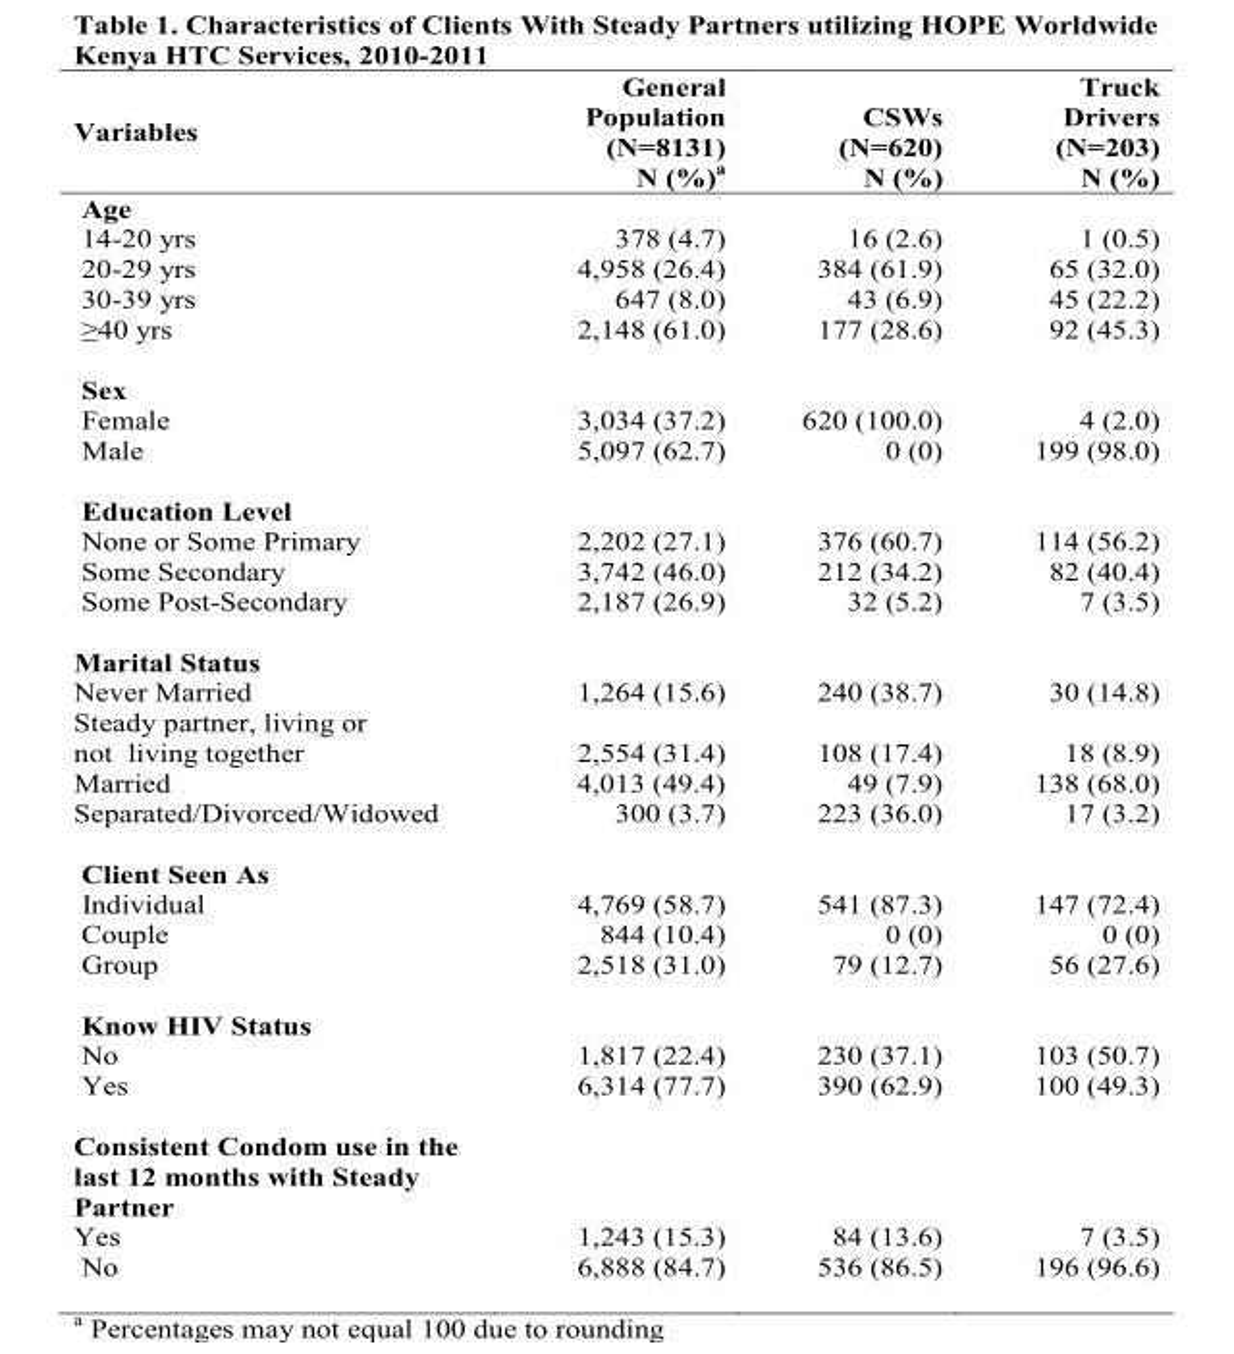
<table><thead><tr><td>Variables</td><td>General Population (N=8131) N (%)<sup>a</sup></td><td>CSWs (N=620) N (%)</td><td>Truck Drivers (N=203) N (%)</td></tr></thead><tbody><tr><td colspan="4">Age</td></tr><tr><td>14-20 yrs</td><td>378 (4.7)</td><td>16 (2.6)</td><td>1 (0.5)</td></tr><tr><td>20-29 yrs</td><td>4,958 (26.4)</td><td>384 (61.9)</td><td>65 (32.0)</td></tr><tr><td>30-39 yrs</td><td>647 (8.0)</td><td>43 (6.9)</td><td>45 (22.2)</td></tr><tr><td>≥40 yrs</td><td>2,148 (61.0)</td><td>177 (28.6)</td><td>92 (45.3)</td></tr><tr><td colspan="4">Sex</td></tr><tr><td>Female</td><td>3,034 (37.2)</td><td>620 (100.0)</td><td>4 (2.0)</td></tr><tr><td>Male</td><td>5,097 (62.7)</td><td>0 (0)</td><td>199 (98.0)</td></tr><tr><td colspan="4">Education Level</td></tr><tr><td>None or Some Primary</td><td>2,202 (27.1)</td><td>376 (60.7)</td><td>114 (56.2)</td></tr><tr><td>Some Secondary</td><td>3,742 (46.0)</td><td>212 (34.2)</td><td>82 (40.4)</td></tr><tr><td>Some Post-Secondary</td><td>2,187 (26.9)</td><td>32 (5.2)</td><td>7 (3.5)</td></tr><tr><td colspan="4">Marital Status</td></tr><tr><td>Never Married</td><td>1,264 (15.6)</td><td>240 (38.7)</td><td>30 (14.8)</td></tr><tr><td>Steady partner, living or not living together</td><td>2,554 (31.4)</td><td>108 (17.4)</td><td>18 (8.9)</td></tr><tr><td>Married</td><td>4,013 (49.4)</td><td>49 (7.9)</td><td>138 (68.0)</td></tr><tr><td>Separated/Divorced/Widowed</td><td>300 (3.7)</td><td>223 (36.0)</td><td>17 (3.2)</td></tr><tr><td colspan="4">Client Seen As</td></tr><tr><td>Individual</td><td>4,769 (58.7)</td><td>541 (87.3)</td><td>147 (72.4)</td></tr><tr><td>Couple</td><td>844 (10.4)</td><td>0 (0)</td><td>0 (0)</td></tr><tr><td>Group</td><td>2,518 (31.0)</td><td>79 (12.7)</td><td>56 (27.6)</td></tr><tr><td colspan="4">Know HIV Status</td></tr><tr><td>No</td><td>1,817 (22.4)</td><td>230 (37.1)</td><td>103 (50.7)</td></tr><tr><td>Yes</td><td>6,314 (77.7)</td><td>390 (62.9)</td><td>100 (49.3)</td></tr><tr><td colspan="4">Consistent Condom use in the last 12 months with Steady Partner</td></tr><tr><td>Yes</td><td>1,243 (15.3)</td><td>84 (13.6)</td><td>7 (3.5)</td></tr><tr><td>No</td><td>6,888 (84.7)</td><td>536 (86.5)</td><td>196 (96.6)</td></tr></tbody></table>